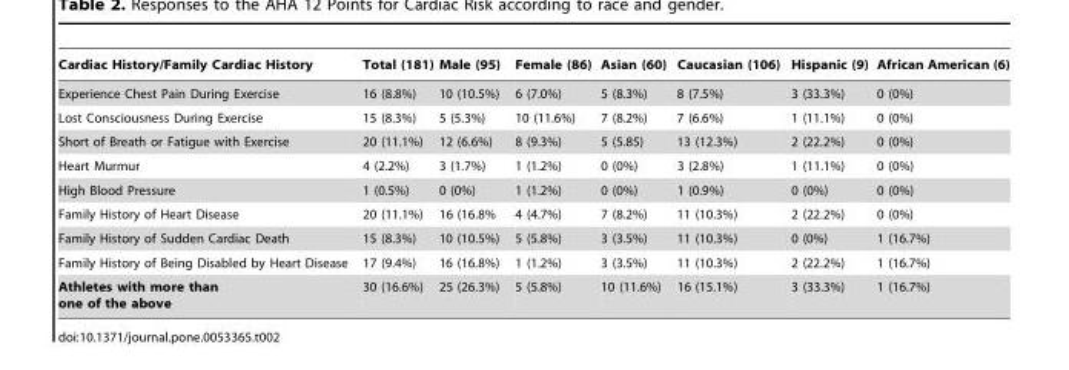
<table><thead><tr><td>Cardiac History/Family Cardiac History</td><td>Total (181)</td><td>Male (95)</td><td>Female (86)</td><td>Asian (60)</td><td>Caucasian (106)</td><td>Hispanic (9)</td><td>African American (6)</td></tr></thead><tbody><tr><td>Experience Chest Pain During Exercise</td><td>16 (8.8%)</td><td>10 (10.5%)</td><td>6 (7.0%)</td><td>5 (8.3%)</td><td>8 (7.5%)</td><td>3 (33.3%)</td><td>0 (0%)</td></tr><tr><td>Lost Consciousness During Exercise</td><td>15 (8.3%)</td><td>5 (5.3%)</td><td>10 (11.6%)</td><td>7 (8.2%)</td><td>7 (6.6%)</td><td>1 (11.1%)</td><td>0 (0%)</td></tr><tr><td>Short of Breath or Fatigue with Exercise</td><td>20 (11.1%)</td><td>12 (6.6%)</td><td>8 (9.3%)</td><td>5 (5.85)</td><td>13 (12.3%)</td><td>2 (22.2%)</td><td>0 (0%)</td></tr><tr><td>Heart Murmur</td><td>4 (2.2%)</td><td>3 (1.7%)</td><td>1 (1.2%)</td><td>0 (0%)</td><td>3 (2.8%)</td><td>1 (11.1%)</td><td>0 (0%)</td></tr><tr><td>High Blood Pressure</td><td>1 (0.5%)</td><td>0 (0%)</td><td>1 (1.2%)</td><td>0 (0%)</td><td>1 (0.9%)</td><td>0 (0%)</td><td>0 (0%)</td></tr><tr><td>Family History of Heart Disease</td><td>20 (11.1%)</td><td>16 (16.8%</td><td>4 (4.7%)</td><td>7 (8.2%)</td><td>11 (10.3%)</td><td>2 (22.2%)</td><td>0 (0%)</td></tr><tr><td>Family History of Sudden Cardiac Death</td><td>15 (8.3%)</td><td>10 (10.5%)</td><td>5 (5.8%)</td><td>3 (3.5%)</td><td>11 (10.3%)</td><td>0 (0%)</td><td>1 (16.7%)</td></tr><tr><td>Family History of Being Disabled by Heart Disease</td><td>17 (9.4%)</td><td>16 (16.8%)</td><td>1 (1.2%)</td><td>3 (3.5%)</td><td>11 (10.3%)</td><td>2 (22.2%)</td><td>1 (16.7%)</td></tr><tr><td>Athletes with more than one of the above</td><td>30 (16.6%)</td><td>25 (26.3%)</td><td>5 (5.8%)</td><td>10 (11.6%)</td><td>16 (15.1%)</td><td>3 (33.3%)</td><td>1 (16.7%)</td></tr></tbody></table>